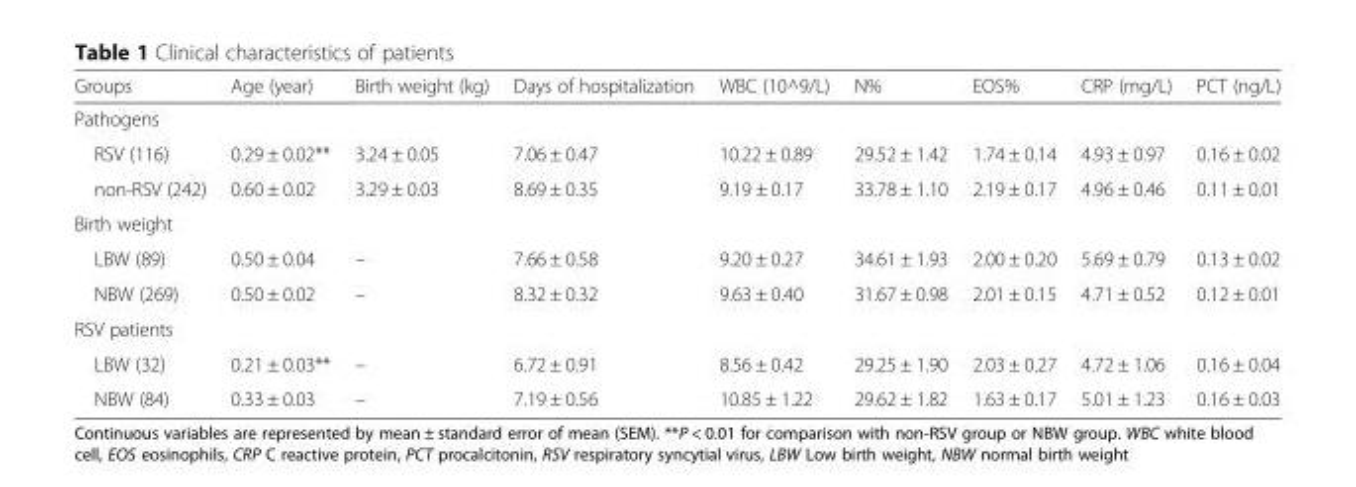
<table><thead><tr><td>Groups</td><td>Age (year)</td><td>Birth weight (kg)</td><td>Days of hospitalization</td><td>WBC (10^9/L)</td><td>N%</td><td>EOS%</td><td>CRP (mg/L)</td><td>PCT (ng/L)</td></tr></thead><tbody><tr><td colspan="9">Pathogens</td></tr><tr><td>RSV (116)</td><td>0.29 ± 0.02**</td><td>3.24 ± 0.05</td><td>7.06 ± 0.47</td><td>10.22 ± 0.89</td><td>29.52 ± 1.42</td><td>1.74 ± 0.14</td><td>4.93 ± 0.97</td><td>0.16 ± 0.02</td></tr><tr><td>non-RSV (242)</td><td>0.60 ± 0.02</td><td>3.29 ± 0.03</td><td>8.69 ± 0.35</td><td>9.19 ± 0.17</td><td>33.78 ± 1.10</td><td>2.19 ± 0.17</td><td>4.96 ± 0.46</td><td>0.11 ± 0.01</td></tr><tr><td colspan="9">Birth weight</td></tr><tr><td>LBW (89)</td><td>0.50 ± 0.04</td><td>–</td><td>7.66 ± 0.58</td><td>9.20 ± 0.27</td><td>34.61 ± 1.93</td><td>2.00 ± 0.20</td><td>5.69 ± 0.79</td><td>0.13 ± 0.02</td></tr><tr><td>NBW (269)</td><td>0.50 ± 0.02</td><td>–</td><td>8.32 ± 0.32</td><td>9.63 ± 0.40</td><td>31.67 ± 0.98</td><td>2.01 ± 0.15</td><td>4.71 ± 0.52</td><td>0.12 ± 0.01</td></tr><tr><td colspan="9">RSV patients</td></tr><tr><td>LBW (32)</td><td>0.21 ± 0.03**</td><td>–</td><td>6.72 ± 0.91</td><td>8.56 ± 0.42</td><td>29.25 ± 1.90</td><td>2.03 ± 0.27</td><td>4.72 ± 1.06</td><td>0.16 ± 0.04</td></tr><tr><td>NBW (84)</td><td>0.33 ± 0.03</td><td>–</td><td>7.19 ± 0.56</td><td>10.85 ± 1.22</td><td>29.62 ± 1.82</td><td>1.63 ± 0.17</td><td>5.01 ± 1.23</td><td>0.16 ± 0.03</td></tr></tbody></table>